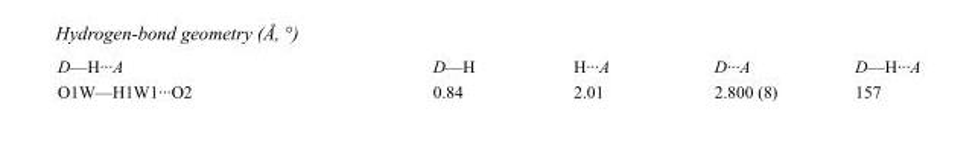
<table><tbody><tr><td>D—H···A</td><td>D—H</td><td>H···A</td><td>D···A</td><td>D—H···A</td></tr><tr><td>O1W—H1W1···O2</td><td>0.84</td><td>2.01</td><td>2.800 (8)</td><td>157</td></tr></tbody></table>